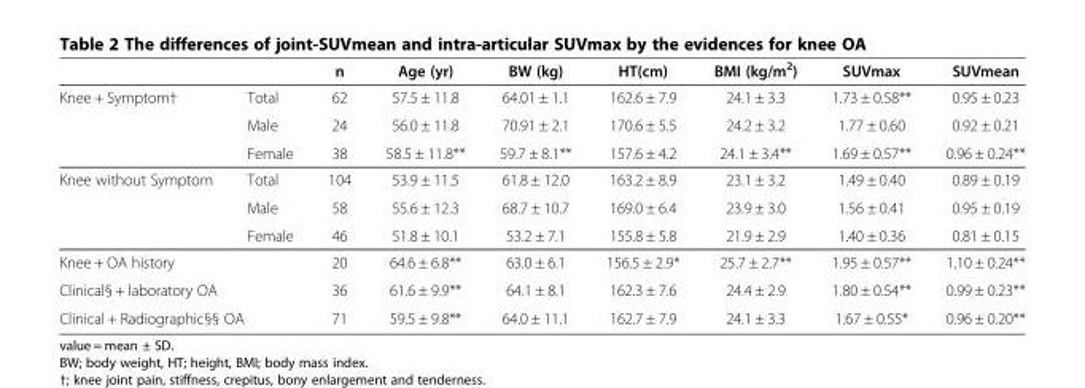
<table><thead><tr><td></td><td></td><td>n</td><td>Age (yr)</td><td>BW (kg)</td><td>HT(cm)</td><td>BMI (kg/m<sup>2</sup>)</td><td>SUVmax</td><td>SUVmean</td></tr></thead><tbody><tr><td rowspan="3">Knee + Symptom†</td><td>Total</td><td>62</td><td>57.5 ± 11.8</td><td>64.01 ± 1.1</td><td>162.6 ± 7.9</td><td>24.1 ± 3.3</td><td>1.73 ± 0.58**</td><td>0.95 ± 0.23</td></tr><tr><td>Male</td><td>24</td><td>56.0 ± 11.8</td><td>70.91 ± 2.1</td><td>170.6 ± 5.5</td><td>24.2 ± 3.2</td><td>1.77 ± 0.60</td><td>0.92 ± 0.21</td></tr><tr><td>Female</td><td>38</td><td>58.5 ± 11.8**</td><td>59.7 ± 8.1**</td><td>157.6 ± 4.2</td><td>24.1 ± 3.4**</td><td>1.69 ± 0.57**</td><td>0.96 ± 0.24**</td></tr><tr><td rowspan="3">Knee without Symptom</td><td>Total</td><td>104</td><td>53.9 ± 11.5</td><td>61.8 ± 12.0</td><td>163.2 ± 8.9</td><td>23.1 ± 3.2</td><td>1.49 ± 0.40</td><td>0.89 ± 0.19</td></tr><tr><td>Male</td><td>58</td><td>55.6 ± 12.3</td><td>68.7 ± 10.7</td><td>169.0 ± 6.4</td><td>23.9 ± 3.0</td><td>1.56 ± 0.41</td><td>0.95 ± 0.19</td></tr><tr><td>Female</td><td>46</td><td>51.8 ± 10.1</td><td>53.2 ± 7.1</td><td>155.8 ± 5.8</td><td>21.9 ± 2.9</td><td>1.40 ± 0.36</td><td>0.81 ± 0.15</td></tr><tr><td>Knee + OA history</td><td></td><td>20</td><td>64.6 ± 6.8**</td><td>63.0 ± 6.1</td><td>156.5 ± 2.9*</td><td>25.7 ± 2.7**</td><td>1.95 ± 0.57**</td><td>1.10 ± 0.24**</td></tr><tr><td colspan="2">Clinical§ + laboratory OA</td><td>36</td><td>61.6 ± 9.9**</td><td>64.1 ± 8.1</td><td>162.3 ± 7.6</td><td>24.4 ± 2.9</td><td>1.80 ± 0.54**</td><td>0.99 ± 0.23**</td></tr><tr><td colspan="2">Clinical + Radiographic§§ OA</td><td>71</td><td>59.5 ± 9.8**</td><td>64.0 ± 11.1</td><td>162.7 ± 7.9</td><td>24.1 ± 3.3</td><td>1.67 ± 0.55*</td><td>0.96 ± 0.20**</td></tr></tbody></table>